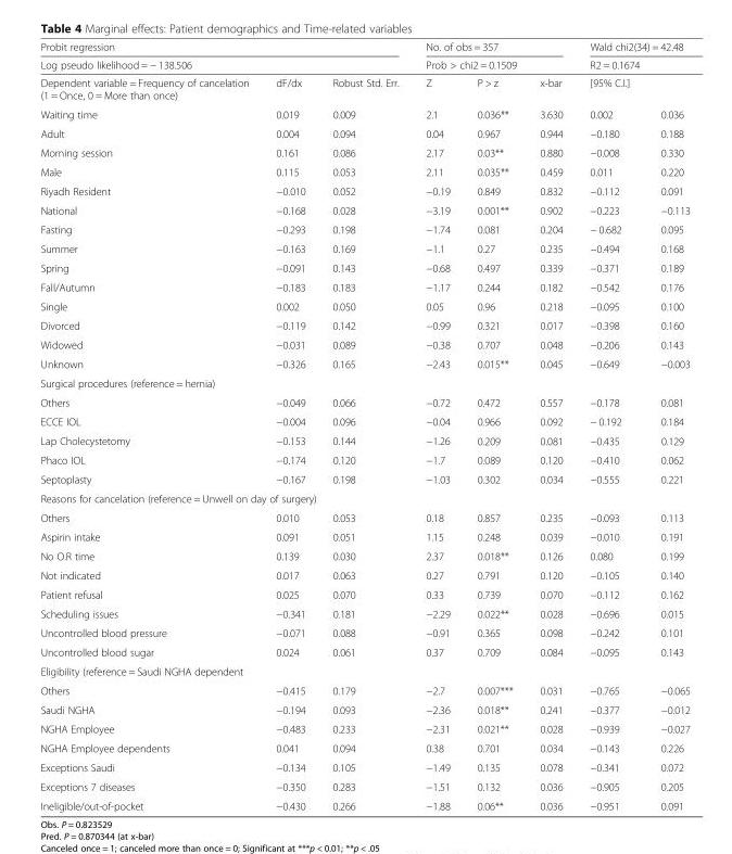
<table><thead><tr><td rowspan="2" colspan="3">Probit regression Log pseudo likelihood = − 138.506</td><td rowspan="2" colspan="3">No. of obs = 357 Prob &gt; chi2 = 0.1509</td><td rowspan="3" colspan="2">Wald chi2(34) = 42.48 R2 = 0.1674 [95% C.I.]</td></tr><tr></tr><tr><td rowspan="2">Dependent variable = Frequency of cancelation (1 = Once, 0 = More than once) Waiting time</td><td rowspan="2">dF/dx 0.019</td><td rowspan="2">Robust Std. Err. 0.009</td><td rowspan="2">Z 2.1</td><td rowspan="2">P &gt; z 0.036**</td><td rowspan="2">x-bar 3.630</td></tr><tr><td>0.002</td><td>0.036</td></tr></thead><tbody><tr><td>Adult</td><td>0.004</td><td>0.094</td><td>0.04</td><td>0.967</td><td>0.944</td><td>−0.180</td><td>0.188</td></tr><tr><td>Morning session</td><td>0.161</td><td>0.086</td><td>2.17</td><td>0.03**</td><td>0.880</td><td>−0.008</td><td>0.330</td></tr><tr><td>Male</td><td>0.115</td><td>0.053</td><td>2.11</td><td>0.035**</td><td>0.459</td><td>0.011</td><td>0.220</td></tr><tr><td>Riyadh Resident</td><td>−0.010</td><td>0.052</td><td>−0.19</td><td>0.849</td><td>0.832</td><td>−0.112</td><td>0.091</td></tr><tr><td>National</td><td>−0.168</td><td>0.028</td><td>−3.19</td><td>0.001**</td><td>0.902</td><td>−0.223</td><td>−0.113</td></tr><tr><td>Fasting</td><td>−0.293</td><td>0.198</td><td>−1.74</td><td>0.081</td><td>0.204</td><td>− 0.682</td><td>0.095</td></tr><tr><td>Summer</td><td>−0.163</td><td>0.169</td><td>−1.1</td><td>0.27</td><td>0.235</td><td>−0.494</td><td>0.168</td></tr><tr><td>Spring</td><td>−0.091</td><td>0.143</td><td>−0.68</td><td>0.497</td><td>0.339</td><td>−0.371</td><td>0.189</td></tr><tr><td>Fall/Autumn</td><td>−0.183</td><td>0.183</td><td>−1.17</td><td>0.244</td><td>0.182</td><td>−0.542</td><td>0.176</td></tr><tr><td>Single</td><td>0.002</td><td>0.050</td><td>0.05</td><td>0.96</td><td>0.218</td><td>−0.095</td><td>0.100</td></tr><tr><td>Divorced</td><td>−0.119</td><td>0.142</td><td>−0.99</td><td>0.321</td><td>0.017</td><td>−0.398</td><td>0.160</td></tr><tr><td>Widowed</td><td>−0.031</td><td>0.089</td><td>−0.38</td><td>0.707</td><td>0.048</td><td>−0.206</td><td>0.143</td></tr><tr><td>Unknown</td><td>−0.326</td><td>0.165</td><td>−2.43</td><td>0.015**</td><td>0.045</td><td>−0.649</td><td>−0.003</td></tr><tr><td colspan="8">Surgical procedures (reference = hernia)</td></tr><tr><td>Others</td><td>−0.049</td><td>0.066</td><td>−0.72</td><td>0.472</td><td>0.557</td><td>−0.178</td><td>0.081</td></tr><tr><td>ECCE IOL</td><td>−0.004</td><td>0.096</td><td>−0.04</td><td>0.966</td><td>0.092</td><td>− 0.192</td><td>0.184</td></tr><tr><td>Lap Cholecystetomy</td><td>−0.153</td><td>0.144</td><td>−1.26</td><td>0.209</td><td>0.081</td><td>−0.435</td><td>0.129</td></tr><tr><td>Phaco IOL</td><td>−0.174</td><td>0.120</td><td>−1.7</td><td>0.089</td><td>0.120</td><td>−0.410</td><td>0.062</td></tr><tr><td>Septoplasty</td><td>−0.167</td><td>0.198</td><td>−1.03</td><td>0.302</td><td>0.034</td><td>−0.555</td><td>0.221</td></tr><tr><td colspan="8">Reasons for cancelation (reference = Unwell on day of surgery)</td></tr><tr><td>Others</td><td>0.010</td><td>0.053</td><td>0.18</td><td>0.857</td><td>0.235</td><td>−0.093</td><td>0.113</td></tr><tr><td>Aspirin intake</td><td>0.091</td><td>0.051</td><td>1.15</td><td>0.248</td><td>0.039</td><td>−0.010</td><td>0.191</td></tr><tr><td>No O.R time</td><td>0.139</td><td>0.030</td><td>2.37</td><td>0.018**</td><td>0.126</td><td>0.080</td><td>0.199</td></tr><tr><td>Not indicated</td><td>0.017</td><td>0.063</td><td>0.27</td><td>0.791</td><td>0.120</td><td>−0.105</td><td>0.140</td></tr><tr><td>Patient refusal</td><td>0.025</td><td>0.070</td><td>0.33</td><td>0.739</td><td>0.070</td><td>−0.112</td><td>0.162</td></tr><tr><td>Scheduling issues</td><td>−0.341</td><td>0.181</td><td>−2.29</td><td>0.022**</td><td>0.028</td><td>−0.696</td><td>0.015</td></tr><tr><td>Uncontrolled blood pressure</td><td>−0.071</td><td>0.088</td><td>−0.91</td><td>0.365</td><td>0.098</td><td>−0.242</td><td>0.101</td></tr><tr><td>Uncontrolled blood sugar</td><td>0.024</td><td>0.061</td><td>0.37</td><td>0.709</td><td>0.084</td><td>−0.095</td><td>0.143</td></tr><tr><td colspan="8">Eligibility (reference = Saudi NGHA dependent</td></tr><tr><td>Others</td><td>−0.415</td><td>0.179</td><td>−2.7</td><td>0.007***</td><td>0.031</td><td>−0.765</td><td>−0.065</td></tr><tr><td>Saudi NGHA</td><td>−0.194</td><td>0.093</td><td>−2.36</td><td>0.018**</td><td>0.241</td><td>−0.377</td><td>−0.012</td></tr><tr><td>NGHA Employee</td><td>−0.483</td><td>0.233</td><td>−2.31</td><td>0.021**</td><td>0.028</td><td>−0.939</td><td>−0.027</td></tr><tr><td>NGHA Employee dependents</td><td>0.041</td><td>0.094</td><td>0.38</td><td>0.701</td><td>0.034</td><td>−0.143</td><td>0.226</td></tr><tr><td>Exceptions Saudi</td><td>−0.134</td><td>0.105</td><td>−1.49</td><td>0.135</td><td>0.078</td><td>−0.341</td><td>0.072</td></tr><tr><td>Exceptions 7 diseases</td><td>−0.350</td><td>0.283</td><td>−1.51</td><td>0.132</td><td>0.036</td><td>−0.905</td><td>0.205</td></tr><tr><td>Ineligible/out-of-pocket</td><td>−0.430</td><td>0.266</td><td>−1.88</td><td>0.06**</td><td>0.036</td><td>−0.951</td><td>0.091</td></tr></tbody></table>